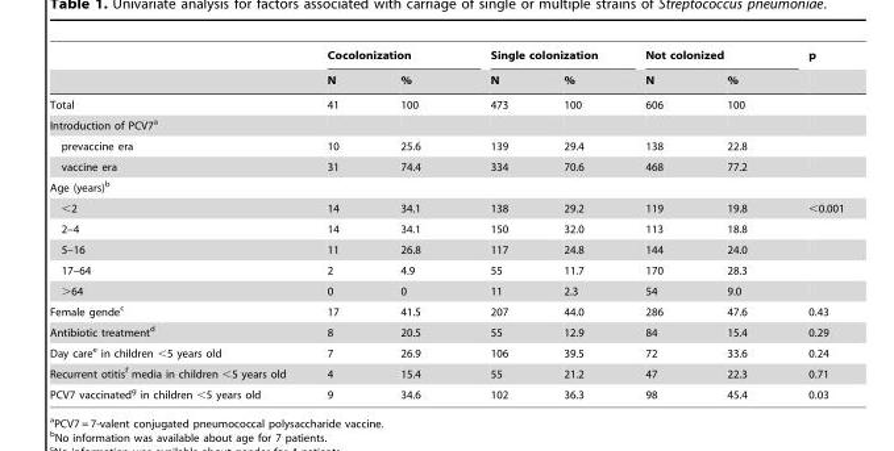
<table><thead><tr><td rowspan="2"></td><td colspan="2">Cocolonization</td><td colspan="2">Single colonization</td><td colspan="2">Not colonized</td><td rowspan="2">p</td></tr><tr><td>N</td><td>%</td><td>N</td><td>%</td><td>N</td><td>%</td></tr></thead><tbody><tr><td>Total</td><td>41</td><td>100</td><td>473</td><td>100</td><td>606</td><td>100</td><td></td></tr><tr><td colspan="8">Introduction of PCV7<sup>a</sup></td></tr><tr><td>prevaccine era</td><td>10</td><td>25.6</td><td>139</td><td>29.4</td><td>138</td><td>22.8</td><td></td></tr><tr><td>vaccine era</td><td>31</td><td>74.4</td><td>334</td><td>70.6</td><td>468</td><td>77.2</td><td></td></tr><tr><td colspan="8">Age (years)<sup>b</sup></td></tr><tr><td>&lt;2</td><td>14</td><td>34.1</td><td>138</td><td>29.2</td><td>119</td><td>19.8</td><td>&lt;0.001</td></tr><tr><td>2–4</td><td>14</td><td>34.1</td><td>150</td><td>32.0</td><td>113</td><td>18.8</td><td></td></tr><tr><td>5–16</td><td>11</td><td>26.8</td><td>117</td><td>24.8</td><td>144</td><td>24.0</td><td></td></tr><tr><td>17–64</td><td>2</td><td>4.9</td><td>55</td><td>11.7</td><td>170</td><td>28.3</td><td></td></tr><tr><td>&gt;64</td><td>0</td><td>0</td><td>11</td><td>2.3</td><td>54</td><td>9.0</td><td></td></tr><tr><td>Female gende<sup>c</sup></td><td>17</td><td>41.5</td><td>207</td><td>44.0</td><td>286</td><td>47.6</td><td>0.43</td></tr><tr><td>Antibiotic treatment<sup>d</sup></td><td>8</td><td>20.5</td><td>55</td><td>12.9</td><td>84</td><td>15.4</td><td>0.29</td></tr><tr><td>Day care<sup>e</sup> in children &lt;5 years old</td><td>7</td><td>26.9</td><td>106</td><td>39.5</td><td>72</td><td>33.6</td><td>0.24</td></tr><tr><td>Recurrent otitis<sup>f</sup> media in children &lt;5 years old</td><td>4</td><td>15.4</td><td>55</td><td>21.2</td><td>47</td><td>22.3</td><td>0.71</td></tr><tr><td>PCV7 vaccinated<sup>g</sup> in children &lt;5 years old</td><td>9</td><td>34.6</td><td>102</td><td>36.3</td><td>98</td><td>45.4</td><td>0.03</td></tr></tbody></table>